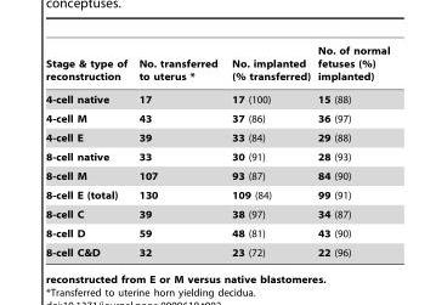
<table><thead><tr><td>Stage &amp; type of reconstruction</td><td>No. transferred to uterus *</td><td>No. implanted (% transferred)</td><td>No. of normal fetuses (%) implanted)</td></tr></thead><tbody><tr><td>4-cell native</td><td>17</td><td>17 (100)</td><td>15 (88)</td></tr><tr><td>4-cell M</td><td>43</td><td>37 (86)</td><td>36 (97)</td></tr><tr><td>4-cell E</td><td>39</td><td>33 (84)</td><td>29 (88)</td></tr><tr><td>8-cell native</td><td>33</td><td>30 (91)</td><td>28 (93)</td></tr><tr><td>8-cell M</td><td>107</td><td>93 (87)</td><td>84 (90)</td></tr><tr><td>8-cell E (total)</td><td>130</td><td>109 (84)</td><td>99 (91)</td></tr><tr><td>8-cell C</td><td>39</td><td>38 (97)</td><td>34 (87)</td></tr><tr><td>8-cell D</td><td>59</td><td>48 (81)</td><td>43 (90)</td></tr><tr><td>8-cell C&amp;D</td><td>32</td><td>23 (72)</td><td>22 (96)</td></tr></tbody></table>